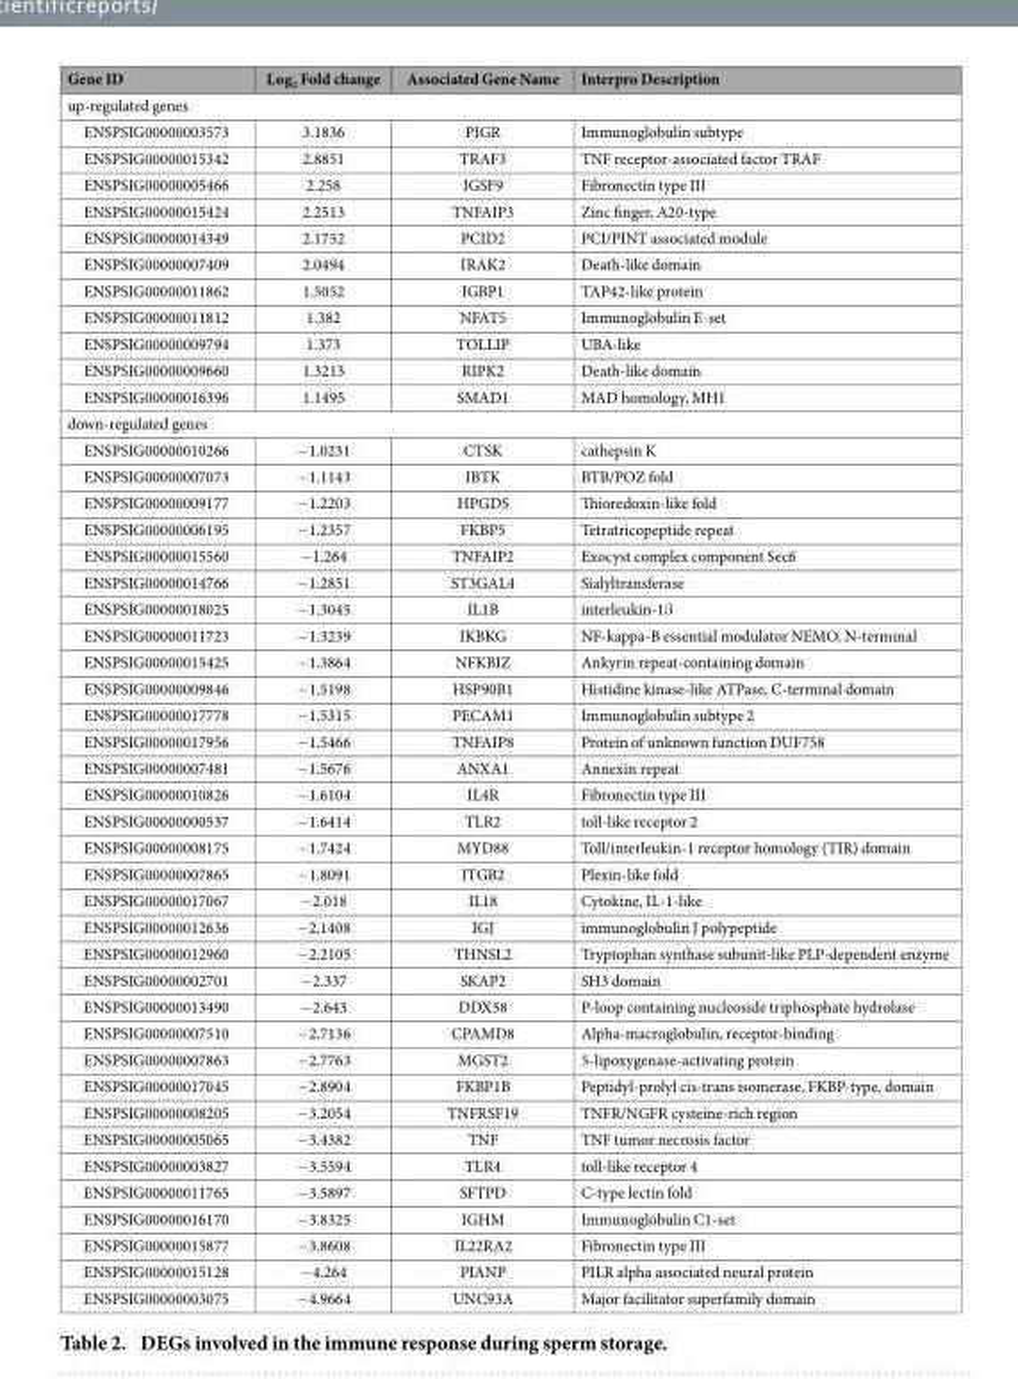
<table><thead><tr><td>Gene ID</td><td>Log<sub>2</sub> Fold change</td><td>Associated Gene Name</td><td>Interpro Description</td></tr></thead><tbody><tr><td colspan="4">up-regulated genes</td></tr><tr><td>ENSPSIG00000003573</td><td>3.1836</td><td>PIGR</td><td>Immunoglobulin subtype</td></tr><tr><td>ENSPSIG00000015342</td><td>2.8851</td><td>TRAF3</td><td>TNF receptor-associated factor TRAF</td></tr><tr><td>ENSPSIG00000005466</td><td>2.258</td><td>IGSF9</td><td>Fibronectin type III</td></tr><tr><td>ENSPSIG00000015424</td><td>2.2513</td><td>TNFAIP3</td><td>Zinc finger, A20-type</td></tr><tr><td>ENSPSIG00000014349</td><td>2.1752</td><td>PCID2</td><td>PCI/PINT associated module</td></tr><tr><td>ENSPSIG00000007409</td><td>2.0494</td><td>IRAK2</td><td>Death-like domain</td></tr><tr><td>ENSPSIG00000011862</td><td>1.5052</td><td>IGBP1</td><td>TAP42-like protein</td></tr><tr><td>ENSPSIG00000011812</td><td>1.382</td><td>NFAT5</td><td>Immunoglobulin E-set</td></tr><tr><td>ENSPSIG00000009794</td><td>1.373</td><td>TOLLIP</td><td>UBA-like</td></tr><tr><td>ENSPSIG00000009660</td><td>1.3213</td><td>RIPK2</td><td>Death-like domain</td></tr><tr><td>ENSPSIG00000016396</td><td>1.1495</td><td>SMAD1</td><td>MAD homology, MH1</td></tr><tr><td colspan="4">down-regulated genes</td></tr><tr><td>ENSPSIG00000010266</td><td>− 1.0231</td><td>CTSK</td><td>cathepsin K</td></tr><tr><td>ENSPSIG00000007073</td><td>− 1.1143</td><td>IBTK</td><td>BTB/POZ fold</td></tr><tr><td>ENSPSIG00000009177</td><td>− 1.2203</td><td>HPGDS</td><td>Thioredoxin-like fold</td></tr><tr><td>ENSPSIG00000006195</td><td>− 1.2357</td><td>FKBP5</td><td>Tetratricopeptide repeat</td></tr><tr><td>ENSPSIG00000015560</td><td>− 1.264</td><td>TNFAIP2</td><td>Exocyst complex component Sec6</td></tr><tr><td>ENSPSIG00000014766</td><td>− 1.2851</td><td>ST3GAL4</td><td>Sialyltransferase</td></tr><tr><td>ENSPSIG00000018025</td><td>− 1.3045</td><td>IL1B</td><td>interleukin‐1β</td></tr><tr><td>ENSPSIG00000011723</td><td>− 1.3239</td><td>IKBKG</td><td>NF-kappa-B essential modulator NEMO, N-terminal</td></tr><tr><td>ENSPSIG00000015425</td><td>− 1.3864</td><td>NFKBIZ</td><td>Ankyrin repeat-containing domain</td></tr><tr><td>ENSPSIG00000009846</td><td>− 1.5198</td><td>HSP90B1</td><td>Histidine kinase-like ATPase, C-terminal domain</td></tr><tr><td>ENSPSIG00000017778</td><td>− 1.5315</td><td>PECAM1</td><td>Immunoglobulin subtype 2</td></tr><tr><td>ENSPSIG00000017956</td><td>− 1.5466</td><td>TNFAIP8</td><td>Protein of unknown function DUF758</td></tr><tr><td>ENSPSIG00000007481</td><td>− 1.5676</td><td>ANXA1</td><td>Annexin repeat</td></tr><tr><td>ENSPSIG00000010826</td><td>− 1.6104</td><td>IL4R</td><td>Fibronectin type III</td></tr><tr><td>ENSPSIG00000000537</td><td>− 1.6414</td><td>TLR2</td><td>toll-like receptor 2</td></tr><tr><td>ENSPSIG00000008175</td><td>− 1.7424</td><td>MYD88</td><td>Toll/interleukin-1 receptor homology (TIR) domain</td></tr><tr><td>ENSPSIG00000007865</td><td>− 1.8091</td><td>ITGB2</td><td>Plexin-like fold</td></tr><tr><td>ENSPSIG00000017067</td><td>− 2.018</td><td>IL18</td><td>Cytokine, IL-1-like</td></tr><tr><td>ENSPSIG00000012636</td><td>− 2.1408</td><td>IGJ</td><td>immunoglobulin J polypeptide</td></tr><tr><td>ENSPSIG00000012960</td><td>− 2.2105</td><td>THNSL2</td><td>Tryptophan synthase subunit-like PLP-dependent enzyme</td></tr><tr><td>ENSPSIG00000002701</td><td>− 2.337</td><td>SKAP2</td><td>SH3 domain</td></tr><tr><td>ENSPSIG00000013490</td><td>− 2.643</td><td>DDX58</td><td>P-loop containing nucleoside triphosphate hydrolase</td></tr><tr><td>ENSPSIG00000007510</td><td>− 2.7136</td><td>CPAMD8</td><td>Alpha-macroglobulin, receptor-binding</td></tr><tr><td>ENSPSIG00000007863</td><td>− 2.7763</td><td>MGST2</td><td>5-lipoxygenase-activating protein</td></tr><tr><td>ENSPSIG00000017045</td><td>− 2.8904</td><td>FKBP1B</td><td>Peptidyl-prolyl cis-trans isomerase, FKBP-type, domain</td></tr><tr><td>ENSPSIG00000008205</td><td>− 3.2054</td><td>TNFRSF19</td><td>TNFR/NGFR cysteine-rich region</td></tr><tr><td>ENSPSIG00000005065</td><td>− 3.4382</td><td>TNF</td><td>TNF tumor necrosis factor</td></tr><tr><td>ENSPSIG00000003827</td><td>− 3.5594</td><td>TLR4</td><td>toll-like receptor 4</td></tr><tr><td>ENSPSIG00000011765</td><td>− 3.5897</td><td>SFTPD</td><td>C-type lectin fold</td></tr><tr><td>ENSPSIG00000016170</td><td>− 3.8325</td><td>IGHM</td><td>Immunoglobulin C1-set</td></tr><tr><td>ENSPSIG00000015877</td><td>− 3.8608</td><td>IL22RA2</td><td>Fibronectin type III</td></tr><tr><td>ENSPSIG00000015128</td><td>− 4.264</td><td>PIANP</td><td>PILR alpha associated neural protein</td></tr><tr><td>ENSPSIG00000003075</td><td>− 4.9664</td><td>UNC93A</td><td>Major facilitator superfamily domain</td></tr></tbody></table>